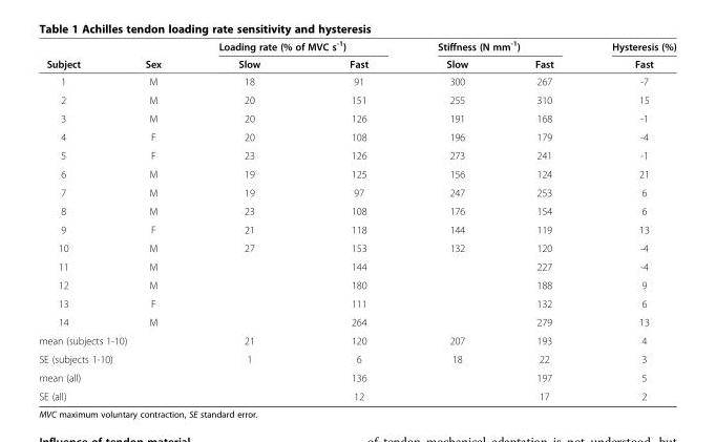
<table><thead><tr><td rowspan="2">Subject</td><td rowspan="2">Sex</td><td colspan="2">Loading rate (% of MVC s<sup>-1</sup>)</td><td colspan="2">Stiffness (N mm<sup>-1</sup>)</td><td rowspan="2">Hysteresis (%) Fast</td></tr><tr><td>Slow</td><td>Fast</td><td>Slow</td><td>Fast</td></tr></thead><tbody><tr><td>1</td><td>M</td><td>18</td><td>91</td><td>300</td><td>267</td><td>-7</td></tr><tr><td>2</td><td>M</td><td>20</td><td>151</td><td>255</td><td>310</td><td>15</td></tr><tr><td>3</td><td>M</td><td>20</td><td>126</td><td>191</td><td>168</td><td>-1</td></tr><tr><td>4</td><td>F</td><td>20</td><td>108</td><td>196</td><td>179</td><td>-4</td></tr><tr><td>5</td><td>F</td><td>23</td><td>126</td><td>273</td><td>241</td><td>-1</td></tr><tr><td>6</td><td>M</td><td>19</td><td>125</td><td>156</td><td>124</td><td>21</td></tr><tr><td>7</td><td>M</td><td>19</td><td>97</td><td>247</td><td>253</td><td>6</td></tr><tr><td>8</td><td>M</td><td>23</td><td>108</td><td>176</td><td>154</td><td>6</td></tr><tr><td>9</td><td>F</td><td>21</td><td>118</td><td>144</td><td>119</td><td>13</td></tr><tr><td>10</td><td>M</td><td>27</td><td>153</td><td>132</td><td>120</td><td>-4</td></tr><tr><td>11</td><td>M</td><td></td><td>144</td><td></td><td>227</td><td>-4</td></tr><tr><td>12</td><td>M</td><td></td><td>180</td><td></td><td>188</td><td>9</td></tr><tr><td>13</td><td>F</td><td></td><td>111</td><td></td><td>132</td><td>6</td></tr><tr><td>14</td><td>M</td><td></td><td>264</td><td></td><td>279</td><td>13</td></tr><tr><td colspan="2">mean (subjects 1-10)</td><td>21</td><td>120</td><td>207</td><td>193</td><td>4</td></tr><tr><td colspan="2">SE (subjects 1-10)</td><td>1</td><td>6</td><td>18</td><td>22</td><td>3</td></tr><tr><td colspan="2">mean (all)</td><td></td><td>136</td><td></td><td>197</td><td>5</td></tr><tr><td colspan="2">SE (all)</td><td></td><td>12</td><td></td><td>17</td><td>2</td></tr></tbody></table>